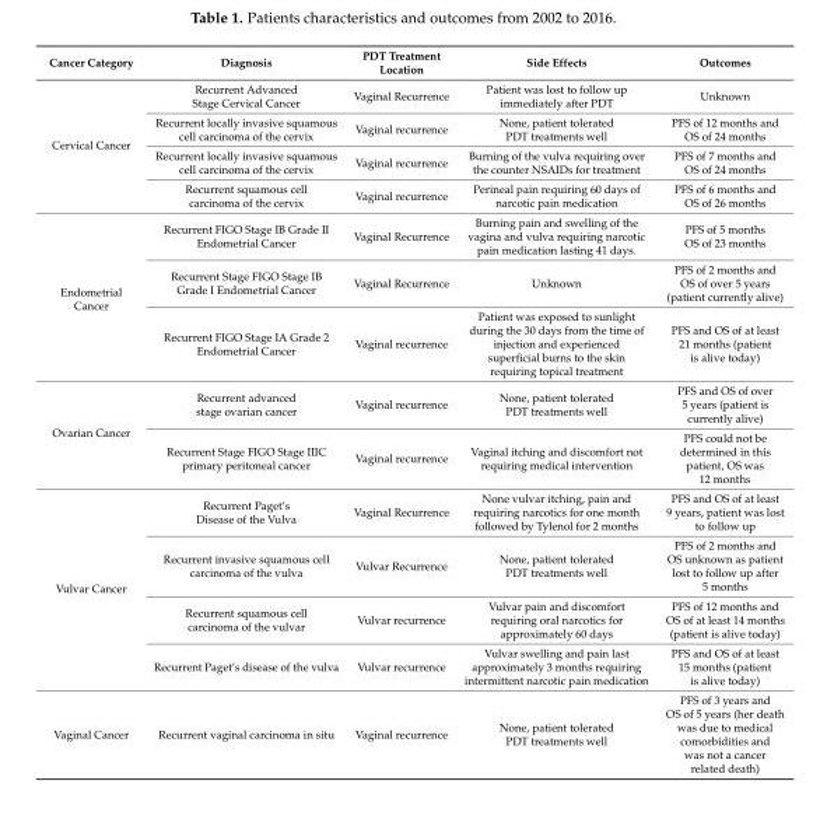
<table><thead><tr><td>Cancer Category</td><td>Diagnosis</td><td>PDT Treatment Location</td><td>Side Effects</td><td>Outcomes</td></tr></thead><tbody><tr><td rowspan="4">Cervical Cancer</td><td>Recurrent Advanced Stage Cervical Cancer</td><td>Vaginal Recurrence</td><td>Patient was lost to follow up immediately after PDT</td><td>Unknown</td></tr><tr><td>Recurrent locally invasive squamous cell carcinoma of the cervix</td><td>Vaginal recurrence</td><td>None, patient tolerated PDT treatments well</td><td>PFS of 12 months and OS of 24 months</td></tr><tr><td>Recurrent locally invasive squamous cell carcinoma of the cervix</td><td>Vaginal recurrence</td><td>Burning of the vulva requiring over the counter NSAIDs for treatment</td><td>PFS of 7 months and OS of 24 months</td></tr><tr><td>Recurrent squamous cell carcinoma of the cervix</td><td>Vaginal recurrence</td><td>Perineal pain requiring 60 days of narcotic pain medication</td><td>PFS of 6 months and OS of 26 months</td></tr><tr><td rowspan="3">Endometrial Cancer</td><td>Recurrent FIGO Stage IB Grade II Endometrial Cancer</td><td>Vaginal Recurrence</td><td>Burning pain and swelling of the vagina and vulva requiring narcotic pain medication lasting 41 days.</td><td>PFS of 5 months OS of 23 months</td></tr><tr><td>Recurrent Stage FIGO Stage IB Grade I Endometrial Cancer</td><td>Vaginal Recurrence</td><td>Unknown</td><td>PFS of 2 months and OS of over 5 years (patient currently alive)</td></tr><tr><td>Recurrent FIGO Stage IA Grade 2 Endometrial Cancer</td><td>Vaginal recurrence</td><td>Patient was exposed to sunlight during the 30 days from the time of injection and experienced superficial burns to the skin requiring topical treatment</td><td>PFS and OS of at least 21 months (patient is alive today)</td></tr><tr><td rowspan="2">Ovarian Cancer</td><td>Recurrent advanced stage ovarian cancer</td><td>Vaginal recurrence</td><td>None, patient tolerated PDT treatments well</td><td>PFS and OS of over 5 years (patient is currently alive)</td></tr><tr><td>Recurrent Stage FIGO Stage IIIC primary peritoneal cancer</td><td>Vaginal recurrence</td><td>Vaginal itching and discomfort not requiring medical intervention</td><td>PFS could not be determined in this patient, OS was 12 months</td></tr><tr><td rowspan="4">Vulvar Cancer</td><td>Recurrent Paget’s Disease of the Vulva</td><td>Vaginal Recurrence</td><td>None vulvar itching, pain and requiring narcotics for one month followed by Tylenol for 2 months</td><td>PFS and OS of at least 9 years, patient was lost to follow up</td></tr><tr><td>Recurrent invasive squamous cell carcinoma of the vulva</td><td>Vulvar Recurrence</td><td>None, patient tolerated PDT treatments well</td><td>PFS of 2 months and OS unknown as patient lost to follow up after 5 months</td></tr><tr><td>Recurrent squamous cell carcinoma of the vulvar</td><td>Vulvar recurrence</td><td>Vulvar pain and discomfort requiring oral narcotics for approximately 60 days</td><td>PFS of 12 months and OS of at least 14 months (patient is alive today)</td></tr><tr><td>Recurrent Paget’s disease of the vulva</td><td>Vulvar recurrence</td><td>Vulvar swelling and pain last approximately 3 months requiring intermittent narcotic pain medication</td><td>PFS and OS of at least 15 months (patient is alive today)</td></tr><tr><td>Vaginal Cancer</td><td>Recurrent vaginal carcinoma in situ</td><td>Vaginal recurrence</td><td>None, patient tolerated PDT treatments well</td><td>PFS of 3 years and OS of 5 years (her death was due to medical comorbidities and was not a cancer related death)</td></tr></tbody></table>